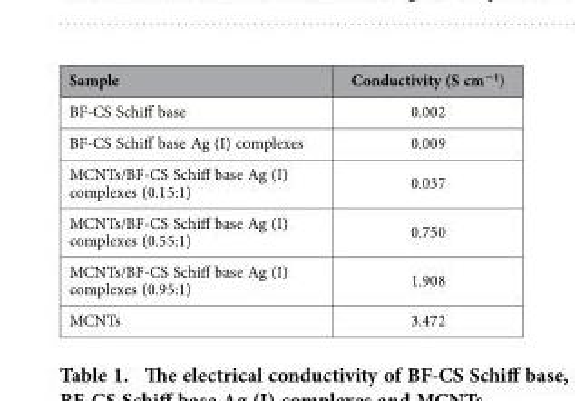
<table><thead><tr><td>Sample</td><td>Conductivity (S cm<sup>−1</sup>)</td></tr></thead><tbody><tr><td>BF-CS Schiff base</td><td>0.002</td></tr><tr><td>BF-CS Schiff base Ag (I) complexes</td><td>0.009</td></tr><tr><td>MCNTs/BF-CS Schiff base Ag (I) complexes (0.15:1)</td><td>0.037</td></tr><tr><td>MCNTs/BF-CS Schiff base Ag (I) complexes (0.55:1)</td><td>0.750</td></tr><tr><td>MCNTs/BF-CS Schiff base Ag (I) complexes (0.95:1)</td><td>1.908</td></tr><tr><td>MCNTs</td><td>3.472</td></tr></tbody></table>